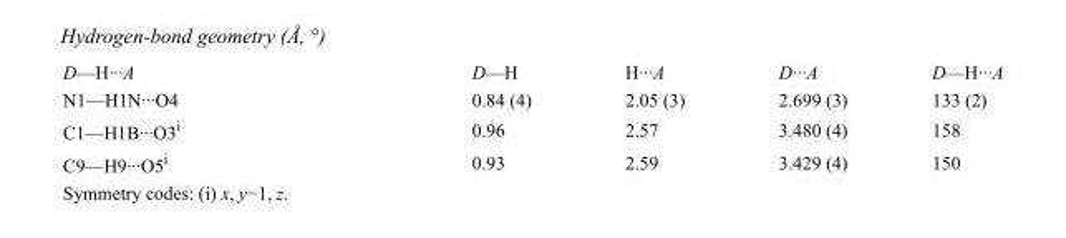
<table><tbody><tr><td>D—H···A</td><td>D—H</td><td>H···A</td><td>D···A</td><td>D—H···A</td></tr><tr><td>N1—H1N···O4</td><td>0.84 (4)</td><td>2.05 (3)</td><td>2.699 (3)</td><td>133 (2)</td></tr><tr><td>C1—H1B···O3<sup>i</sup></td><td>0.96</td><td>2.57</td><td>3.480 (4)</td><td>158</td></tr><tr><td>C9—H9···O5<sup>i</sup></td><td>0.93</td><td>2.59</td><td>3.429 (4)</td><td>150</td></tr></tbody></table>